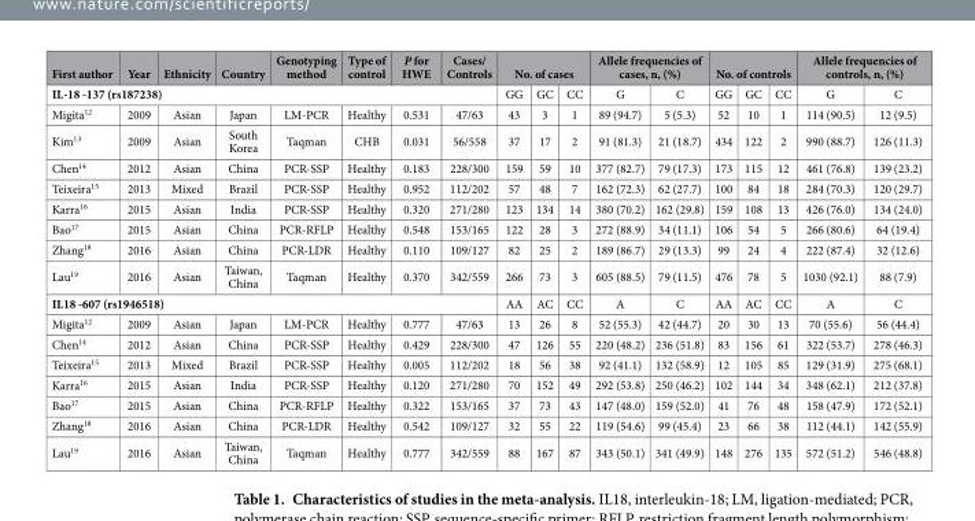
<table><thead><tr><td>First author</td><td>Year</td><td>Ethnicity</td><td>Country</td><td>Genotyping method</td><td>Type of control</td><td>P for HWE</td><td>Cases/ Controls</td><td colspan="3">No. of cases</td><td colspan="2">Allele frequencies of cases, n, (%)</td><td colspan="3">No. of controls</td><td colspan="2">Allele frequencies of controls, n, (%)</td></tr><tr><td colspan="8">IL-18 -137 (rs187238)</td><td>GG</td><td>GC</td><td>CC</td><td>G</td><td>C</td><td>GG</td><td>GC</td><td>CC</td><td>G</td><td>C</td></tr></thead><tbody><tr><td>Migita<sup>12</sup></td><td>2009</td><td>Asian</td><td>Japan</td><td>LM-PCR</td><td>Healthy</td><td>0.531</td><td>47/63</td><td>43</td><td>3</td><td>1</td><td>89 (94.7)</td><td>5 (5.3)</td><td>52</td><td>10</td><td>1</td><td>114 (90.5)</td><td>12 (9.5)</td></tr><tr><td>Kim<sup>13</sup></td><td>2009</td><td>Asian</td><td>South Korea</td><td>Taqman</td><td>CHB</td><td>0.031</td><td>56/558</td><td>37</td><td>17</td><td>2</td><td>91 (81.3)</td><td>21 (18.7)</td><td>434</td><td>122</td><td>2</td><td>990 (88.7)</td><td>126 (11.3)</td></tr><tr><td>Chen<sup>14</sup></td><td>2012</td><td>Asian</td><td>China</td><td>PCR-SSP</td><td>Healthy</td><td>0.183</td><td>228/300</td><td>159</td><td>59</td><td>10</td><td>377 (82.7)</td><td>79 (17.3)</td><td>173</td><td>115</td><td>12</td><td>461 (76.8)</td><td>139 (23.2)</td></tr><tr><td>Teixeira<sup>15</sup></td><td>2013</td><td>Mixed</td><td>Brazil</td><td>PCR-SSP</td><td>Healthy</td><td>0.952</td><td>112/202</td><td>57</td><td>48</td><td>7</td><td>162 (72.3)</td><td>62 (27.7)</td><td>100</td><td>84</td><td>18</td><td>284 (70.3)</td><td>120 (29.7)</td></tr><tr><td>Karra<sup>16</sup></td><td>2015</td><td>Asian</td><td>India</td><td>PCR-SSP</td><td>Healthy</td><td>0.320</td><td>271/280</td><td>123</td><td>134</td><td>14</td><td>380 (70.2)</td><td>162 (29.8)</td><td>159</td><td>108</td><td>13</td><td>426 (76.0)</td><td>134 (24.0)</td></tr><tr><td>Bao<sup>17</sup></td><td>2015</td><td>Asian</td><td>China</td><td>PCR-RFLP</td><td>Healthy</td><td>0.548</td><td>153/165</td><td>122</td><td>28</td><td>3</td><td>272 (88.9)</td><td>34 (11.1)</td><td>106</td><td>54</td><td>5</td><td>266 (80.6)</td><td>64 (19.4)</td></tr><tr><td>Zhang<sup>18</sup></td><td>2016</td><td>Asian</td><td>China</td><td>PCR-LDR</td><td>Healthy</td><td>0.110</td><td>109/127</td><td>82</td><td>25</td><td>2</td><td>189 (86.7)</td><td>29 (13.3)</td><td>99</td><td>24</td><td>4</td><td>222 (87.4)</td><td>32 (12.6)</td></tr><tr><td>Lau<sup>19</sup></td><td>2016</td><td>Asian</td><td>Taiwan, China</td><td>Taqman</td><td>Healthy</td><td>0.370</td><td>342/559</td><td>266</td><td>73</td><td>3</td><td>605 (88.5)</td><td>79 (11.5)</td><td>476</td><td>78</td><td>5</td><td>1030 (92.1)</td><td>88 (7.9)</td></tr><tr><td colspan="8">IL18 -607 (rs1946518)</td><td>AA</td><td>AC</td><td>CC</td><td>A</td><td>C</td><td>AA</td><td>AC</td><td>CC</td><td>A</td><td>C</td></tr><tr><td>Migita<sup>12</sup></td><td>2009</td><td>Asian</td><td>Japan</td><td>LM-PCR</td><td>Healthy</td><td>0.777</td><td>47/63</td><td>13</td><td>26</td><td>8</td><td>52 (55.3)</td><td>42 (44.7)</td><td>20</td><td>30</td><td>13</td><td>70 (55.6)</td><td>56 (44.4)</td></tr><tr><td>Chen<sup>14</sup></td><td>2012</td><td>Asian</td><td>China</td><td>PCR-SSP</td><td>Healthy</td><td>0.429</td><td>228/300</td><td>47</td><td>126</td><td>55</td><td>220 (48.2)</td><td>236 (51.8)</td><td>83</td><td>156</td><td>61</td><td>322 (53.7)</td><td>278 (46.3)</td></tr><tr><td>Teixeira<sup>15</sup></td><td>2013</td><td>Mixed</td><td>Brazil</td><td>PCR-SSP</td><td>Healthy</td><td>0.005</td><td>112/202</td><td>18</td><td>56</td><td>38</td><td>92 (41.1)</td><td>132 (58.9)</td><td>12</td><td>105</td><td>85</td><td>129 (31.9)</td><td>275 (68.1)</td></tr><tr><td>Karra<sup>16</sup></td><td>2015</td><td>Asian</td><td>India</td><td>PCR-SSP</td><td>Healthy</td><td>0.120</td><td>271/280</td><td>70</td><td>152</td><td>49</td><td>292 (53.8)</td><td>250 (46.2)</td><td>102</td><td>144</td><td>34</td><td>348 (62.1)</td><td>212 (37.8)</td></tr><tr><td>Bao<sup>17</sup></td><td>2015</td><td>Asian</td><td>China</td><td>PCR-RFLP</td><td>Healthy</td><td>0.322</td><td>153/165</td><td>37</td><td>73</td><td>43</td><td>147 (48.0)</td><td>159 (52.0)</td><td>41</td><td>76</td><td>48</td><td>158 (47.9)</td><td>172 (52.1)</td></tr><tr><td>Zhang<sup>18</sup></td><td>2016</td><td>Asian</td><td>China</td><td>PCR-LDR</td><td>Healthy</td><td>0.542</td><td>109/127</td><td>32</td><td>55</td><td>22</td><td>119 (54.6)</td><td>99 (45.4)</td><td>23</td><td>66</td><td>38</td><td>112 (44.1)</td><td>142 (55.9)</td></tr><tr><td>Lau<sup>19</sup></td><td>2016</td><td>Asian</td><td>Taiwan, China</td><td>Taqman</td><td>Healthy</td><td>0.777</td><td>342/559</td><td>88</td><td>167</td><td>87</td><td>343 (50.1)</td><td>341 (49.9)</td><td>148</td><td>276</td><td>135</td><td>572 (51.2)</td><td>546 (48.8)</td></tr></tbody></table>